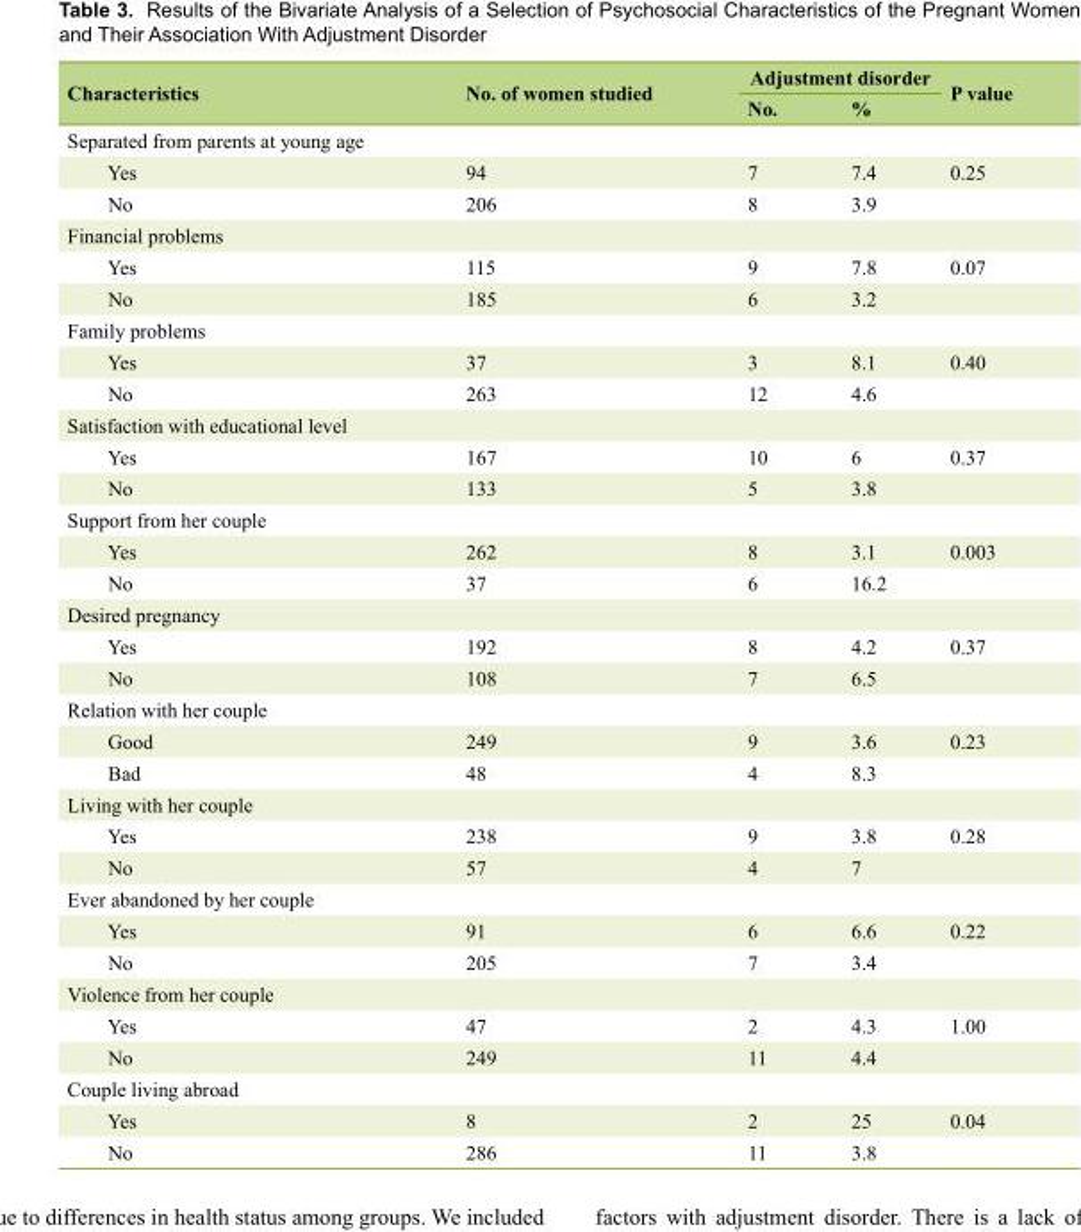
<table><thead><tr><td rowspan="2">Characteristics</td><td rowspan="2">No. of women studied</td><td colspan="2">Adjustment disorder</td><td rowspan="2">P value</td></tr><tr><td>No.</td><td>%</td></tr></thead><tbody><tr><td colspan="5">Separated from parents at young age</td></tr><tr><td>Yes</td><td>94</td><td>7</td><td>7.4</td><td>0.25</td></tr><tr><td>No</td><td>206</td><td>8</td><td>3.9</td><td></td></tr><tr><td colspan="5">Financial problems</td></tr><tr><td>Yes</td><td>115</td><td>9</td><td>7.8</td><td>0.07</td></tr><tr><td>No</td><td>185</td><td>6</td><td>3.2</td><td></td></tr><tr><td colspan="5">Family problems</td></tr><tr><td>Yes</td><td>37</td><td>3</td><td>8.1</td><td>0.40</td></tr><tr><td>No</td><td>263</td><td>12</td><td>4.6</td><td></td></tr><tr><td colspan="5">Satisfaction with educational level</td></tr><tr><td>Yes</td><td>167</td><td>10</td><td>6</td><td>0.37</td></tr><tr><td>No</td><td>133</td><td>5</td><td>3.8</td><td></td></tr><tr><td colspan="5">Support from her couple</td></tr><tr><td>Yes</td><td>262</td><td>8</td><td>3.1</td><td>0.003</td></tr><tr><td>No</td><td>37</td><td>6</td><td>16.2</td><td></td></tr><tr><td colspan="5">Desired pregnancy</td></tr><tr><td>Yes</td><td>192</td><td>8</td><td>4.2</td><td>0.37</td></tr><tr><td>No</td><td>108</td><td>7</td><td>6.5</td><td></td></tr><tr><td colspan="5">Relation with her couple</td></tr><tr><td>Good</td><td>249</td><td>9</td><td>3.6</td><td>0.23</td></tr><tr><td>Bad</td><td>48</td><td>4</td><td>8.3</td><td></td></tr><tr><td colspan="5">Living with her couple</td></tr><tr><td>Yes</td><td>238</td><td>9</td><td>3.8</td><td>0.28</td></tr><tr><td>No</td><td>57</td><td>4</td><td>7</td><td></td></tr><tr><td colspan="5">Ever abandoned by her couple</td></tr><tr><td>Yes</td><td>91</td><td>6</td><td>6.6</td><td>0.22</td></tr><tr><td>No</td><td>205</td><td>7</td><td>3.4</td><td></td></tr><tr><td colspan="5">Violence from her couple</td></tr><tr><td>Yes</td><td>47</td><td>2</td><td>4.3</td><td>1.00</td></tr><tr><td>No</td><td>249</td><td>11</td><td>4.4</td><td></td></tr><tr><td colspan="5">Couple living abroad</td></tr><tr><td>Yes</td><td>8</td><td>2</td><td>25</td><td>0.04</td></tr><tr><td>No</td><td>286</td><td>11</td><td>3.8</td><td></td></tr></tbody></table>